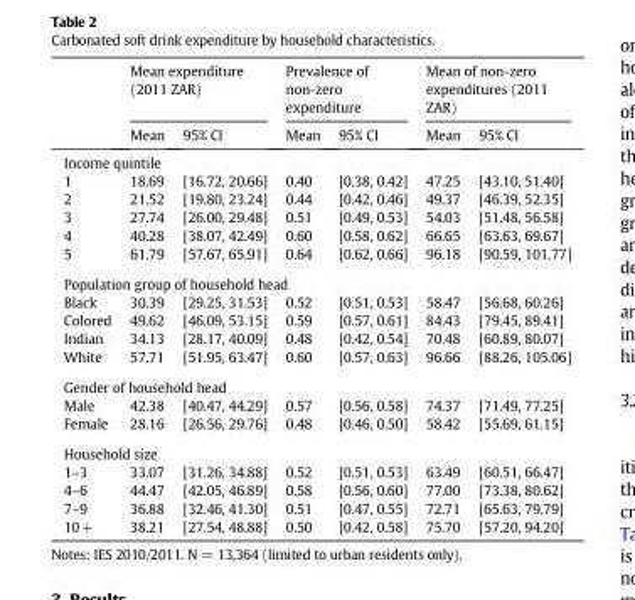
<table><thead><tr><td rowspan="2"></td><td colspan="2">Mean expenditure (2011 ZAR)</td><td colspan="2">Prevalence of non-zero expenditure</td><td colspan="2">Mean of non-zero expenditures (2011 ZAR)</td></tr><tr><td>Mean</td><td>95% CI</td><td>Mean</td><td>95% CI</td><td>Mean</td><td>95% CI</td></tr></thead><tbody><tr><td colspan="7">Income quintile</td></tr><tr><td>1</td><td>18.69</td><td>[16.72, 20.66]</td><td>0.40</td><td>[0.38, 0.42]</td><td>47.25</td><td>[43.10, 51.40]</td></tr><tr><td>2</td><td>21.52</td><td>[19.80, 23.24]</td><td>0.44</td><td>[0.42, 0.46]</td><td>49.37</td><td>[46.39, 52.35]</td></tr><tr><td>3</td><td>27.74</td><td>[26.00, 29.48]</td><td>0.51</td><td>[0.49, 0.53]</td><td>54.03</td><td>[51.48, 56.58]</td></tr><tr><td>4</td><td>40.28</td><td>[38.07, 42.49]</td><td>0.60</td><td>[0.58, 0.62]</td><td>66.65</td><td>[63.63, 69.67]</td></tr><tr><td>5</td><td>61.79</td><td>[57.67, 65.91]</td><td>0.64</td><td>[0.62, 0.66]</td><td>96.18</td><td>[90.59, 101.77]</td></tr><tr><td colspan="7">Population group of household head</td></tr><tr><td>Black</td><td>30.39</td><td>[29.25, 31.53]</td><td>0.52</td><td>[0.51, 0.53]</td><td>58.47</td><td>[56.68, 60.26]</td></tr><tr><td>Colored</td><td>49.62</td><td>[46.09, 53.15]</td><td>0.59</td><td>[0.57, 0.61]</td><td>84.43</td><td>[79.45, 89.41]</td></tr><tr><td>Indian</td><td>34.13</td><td>[28.17, 40.09]</td><td>0.48</td><td>[0.42, 0.54]</td><td>70.48</td><td>[60.89, 80.07]</td></tr><tr><td>White</td><td>57.71</td><td>[51.95, 63.47]</td><td>0.60</td><td>[0.57, 0.63]</td><td>96.66</td><td>[88.26, 105.06]</td></tr><tr><td colspan="7">Gender of household head</td></tr><tr><td>Male</td><td>42.38</td><td>[40.47, 44.29]</td><td>0.57</td><td>[0.56, 0.58]</td><td>74.37</td><td>[71.49, 77.25]</td></tr><tr><td>Female</td><td>28.16</td><td>[26.56, 29.76]</td><td>0.48</td><td>[0.46, 0.50]</td><td>58.42</td><td>[55.69, 61.15]</td></tr><tr><td colspan="7">Household size</td></tr><tr><td>1–3</td><td>33.07</td><td>[31.26, 34.88]</td><td>0.52</td><td>[0.51, 0.53]</td><td>63.49</td><td>[60.51, 66.47]</td></tr><tr><td>4–6</td><td>44.47</td><td>[42.05, 46.89]</td><td>0.58</td><td>[0.56, 0.60]</td><td>77.00</td><td>[73.38, 80.62]</td></tr><tr><td>7–9</td><td>36.88</td><td>[32.46, 41.30]</td><td>0.51</td><td>[0.47, 0.55]</td><td>72.71</td><td>[65.63, 79.79]</td></tr><tr><td>10+</td><td>38.21</td><td>[27.54, 48.88]</td><td>0.50</td><td>[0.42, 0.58]</td><td>75.70</td><td>[57.20, 94.20]</td></tr></tbody></table>